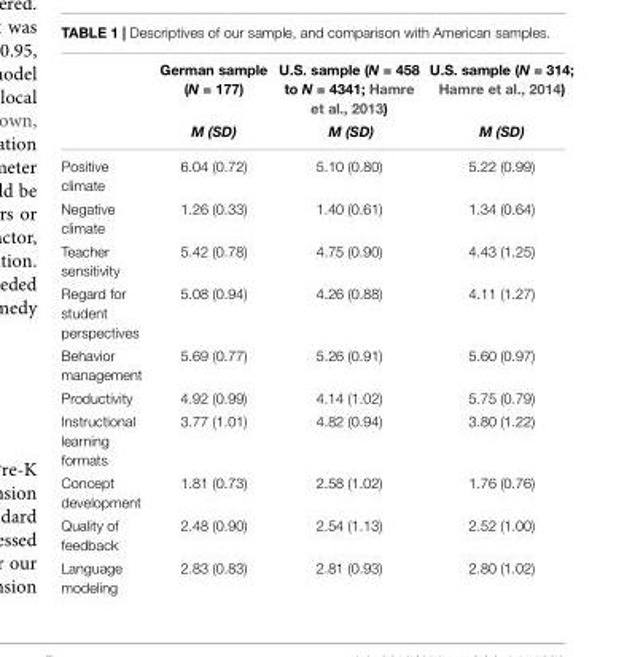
<table><thead><tr><td rowspan="2"></td><td rowspan="2">German sample (N = 177) M (SD)</td><td rowspan="2">U.S. sample (N = 458 to N = 4341; Hamre et al., 2013) M (SD)</td><td rowspan="2">U.S. sample (N = 314; Hamre et al., 2014) M (SD)</td></tr><tr></tr></thead><tbody><tr><td>Positive climate</td><td>6.04 (0.72)</td><td>5.10 (0.80)</td><td>5.22 (0.99)</td></tr><tr><td>Negative climate</td><td>1.26 (0.33)</td><td>1.40 (0.61)</td><td>1.34 (0.64)</td></tr><tr><td>Teacher sensitivity</td><td>5.42 (0.78)</td><td>4.75 (0.90)</td><td>4.43 (1.25)</td></tr><tr><td>Regard for student perspectives</td><td>5.08 (0.94)</td><td>4.26 (0.88)</td><td>4.11 (1.27)</td></tr><tr><td>Behavior management</td><td>5.69 (0.77)</td><td>5.26 (0.91)</td><td>5.60 (0.97)</td></tr><tr><td>Productivity</td><td>4.92 (0.99)</td><td>4.14 (1.02)</td><td>5.75 (0.79)</td></tr><tr><td>Instructional learning formats</td><td>3.77 (1.01)</td><td>4.82 (0.94)</td><td>3.80 (1.22)</td></tr><tr><td>Concept development</td><td>1.81 (0.73)</td><td>2.58 (1.02)</td><td>1.76 (0.76)</td></tr><tr><td>Quality of feedback</td><td>2.48 (0.90)</td><td>2.54 (1.13)</td><td>2.52 (1.00)</td></tr><tr><td>Language modeling</td><td>2.83 (0.83)</td><td>2.81 (0.93)</td><td>2.80 (1.02)</td></tr></tbody></table>